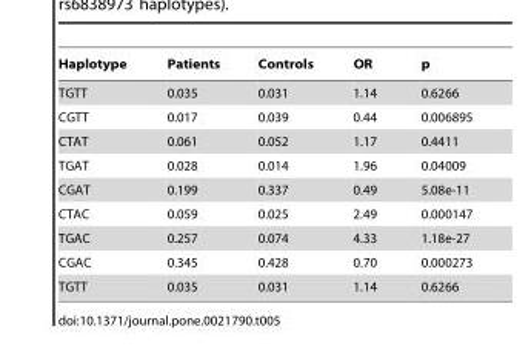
<table><thead><tr><td>Haplotype</td><td>Patients</td><td>Controls</td><td>OR</td><td>p</td></tr></thead><tbody><tr><td>TGTT</td><td>0.035</td><td>0.031</td><td>1.14</td><td>0.6266</td></tr><tr><td>CGTT</td><td>0.017</td><td>0.039</td><td>0.44</td><td>0.006895</td></tr><tr><td>CTAT</td><td>0.061</td><td>0.052</td><td>1.17</td><td>0.4411</td></tr><tr><td>TGAT</td><td>0.028</td><td>0.014</td><td>1.96</td><td>0.04009</td></tr><tr><td>CGAT</td><td>0.199</td><td>0.337</td><td>0.49</td><td>5.08e-11</td></tr><tr><td>CTAC</td><td>0.059</td><td>0.025</td><td>2.49</td><td>0.000147</td></tr><tr><td>TGAC</td><td>0.257</td><td>0.074</td><td>4.33</td><td>1.18e-27</td></tr><tr><td>CGAC</td><td>0.345</td><td>0.428</td><td>0.70</td><td>0.000273</td></tr><tr><td>TGTT</td><td>0.035</td><td>0.031</td><td>1.14</td><td>0.6266</td></tr></tbody></table>